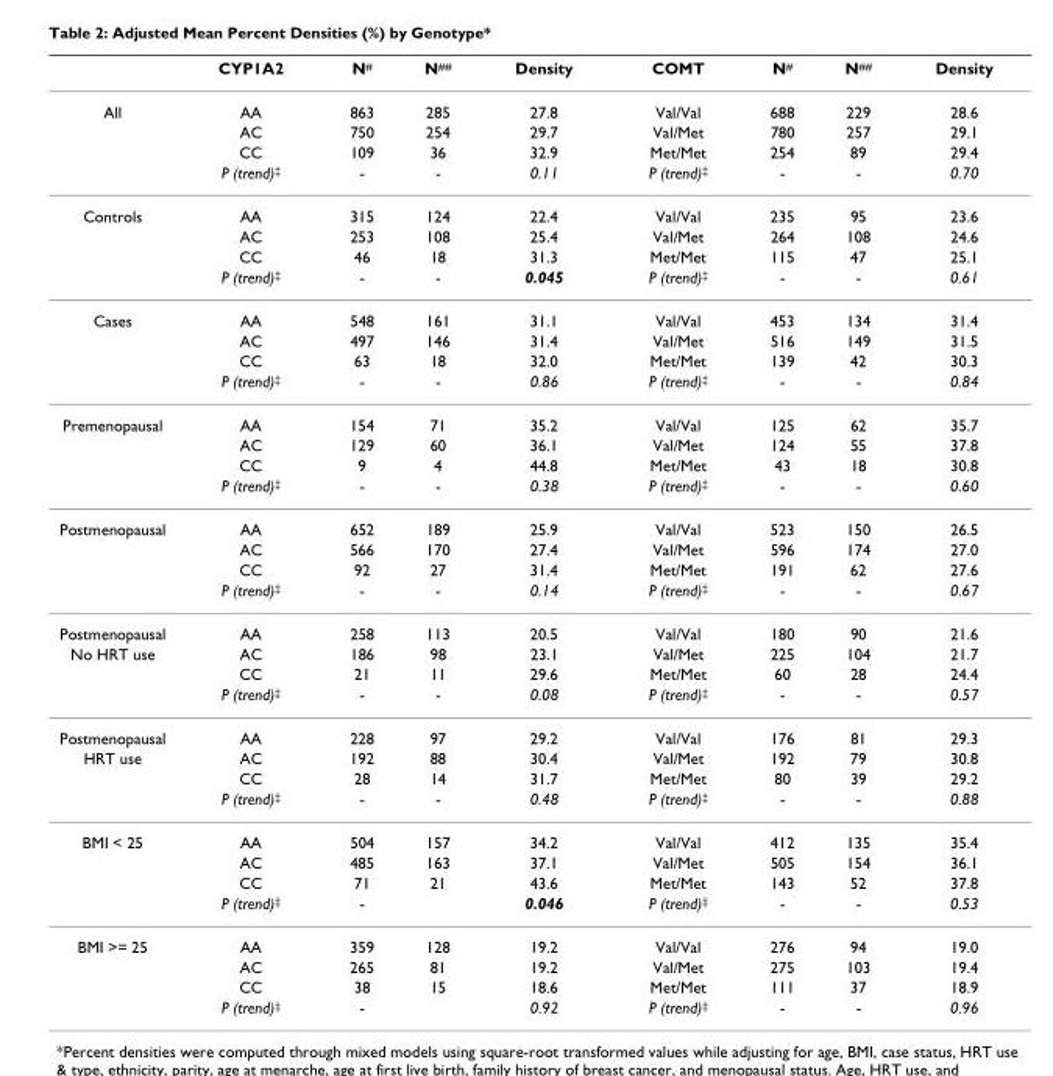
<table><thead><tr><td></td><td>CYP1A2</td><td>N#</td><td>N##</td><td>Density</td><td>COMT</td><td>N#</td><td>N##</td><td>Density</td></tr></thead><tbody><tr><td rowspan="4">All</td><td>AA</td><td>863</td><td>285</td><td>27.8</td><td>Val/Val</td><td>688</td><td>229</td><td>28.6</td></tr><tr><td>AC</td><td>750</td><td>254</td><td>29.7</td><td>Val/Met</td><td>780</td><td>257</td><td>29.1</td></tr><tr><td>CC</td><td>109</td><td>36</td><td>32.9</td><td>Met/Met</td><td>254</td><td>89</td><td>29.4</td></tr><tr><td>P (trend)‡</td><td>-</td><td>-</td><td>0.11</td><td>P (trend)‡</td><td>-</td><td>-</td><td>0.70</td></tr><tr><td rowspan="4">Controls</td><td>AA</td><td>315</td><td>124</td><td>22.4</td><td>Val/Val</td><td>235</td><td>95</td><td>23.6</td></tr><tr><td>AC</td><td>253</td><td>108</td><td>25.4</td><td>Val/Met</td><td>264</td><td>108</td><td>24.6</td></tr><tr><td>CC</td><td>46</td><td>18</td><td>31.3</td><td>Met/Met</td><td>115</td><td>47</td><td>25.1</td></tr><tr><td>P (trend)‡</td><td>-</td><td>-</td><td>0.045</td><td>P (trend)‡</td><td>-</td><td>-</td><td>0.61</td></tr><tr><td rowspan="4">Cases</td><td>AA</td><td>548</td><td>161</td><td>31.1</td><td>Val/Val</td><td>453</td><td>134</td><td>31.4</td></tr><tr><td>AC</td><td>497</td><td>146</td><td>31.4</td><td>Val/Met</td><td>516</td><td>149</td><td>31.5</td></tr><tr><td>CC</td><td>63</td><td>18</td><td>32.0</td><td>Met/Met</td><td>139</td><td>42</td><td>30.3</td></tr><tr><td>P (trend)‡</td><td>-</td><td>-</td><td>0.86</td><td>P (trend)‡</td><td>-</td><td>-</td><td>0.84</td></tr><tr><td rowspan="4">Premenopausal</td><td>AA</td><td>154</td><td>71</td><td>35.2</td><td>Val/Val</td><td>125</td><td>62</td><td>35.7</td></tr><tr><td>AC</td><td>129</td><td>60</td><td>36.1</td><td>Val/Met</td><td>124</td><td>55</td><td>37.8</td></tr><tr><td>CC</td><td>9</td><td>4</td><td>44.8</td><td>Met/Met</td><td>43</td><td>18</td><td>30.8</td></tr><tr><td>P (trend)‡</td><td>-</td><td>-</td><td>0.38</td><td>P (trend)‡</td><td>-</td><td>-</td><td>0.60</td></tr><tr><td rowspan="4">Postmenopausal</td><td>AA</td><td>652</td><td>189</td><td>25.9</td><td>Val/Val</td><td>523</td><td>150</td><td>26.5</td></tr><tr><td>AC</td><td>566</td><td>170</td><td>27.4</td><td>Val/Met</td><td>596</td><td>174</td><td>27.0</td></tr><tr><td>CC</td><td>92</td><td>27</td><td>31.4</td><td>Met/Met</td><td>191</td><td>62</td><td>27.6</td></tr><tr><td>P (trend)‡</td><td>-</td><td>-</td><td>0.14</td><td>P (trend)‡</td><td>-</td><td>-</td><td>0.67</td></tr><tr><td>Postmenopausal</td><td>AA</td><td>258</td><td>113</td><td>20.5</td><td>Val/Val</td><td>180</td><td>90</td><td>21.6</td></tr><tr><td rowspan="3">No HRT use</td><td>AC</td><td>186</td><td>98</td><td>23.1</td><td>Val/Met</td><td>225</td><td>104</td><td>21.7</td></tr><tr><td>CC</td><td>21</td><td>11</td><td>29.6</td><td>Met/Met</td><td>60</td><td>28</td><td>24.4</td></tr><tr><td>P (trend)‡</td><td>-</td><td>-</td><td>0.08</td><td>P (trend)‡</td><td>-</td><td>-</td><td>0.57</td></tr><tr><td>Postmenopausal</td><td>AA</td><td>228</td><td>97</td><td>29.2</td><td>Val/Val</td><td>176</td><td>81</td><td>29.3</td></tr><tr><td rowspan="3">HRT use</td><td>AC</td><td>192</td><td>88</td><td>30.4</td><td>Val/Met</td><td>192</td><td>79</td><td>30.8</td></tr><tr><td>CC</td><td>28</td><td>14</td><td>31.7</td><td>Met/Met</td><td>80</td><td>39</td><td>29.2</td></tr><tr><td>P (trend)‡</td><td>-</td><td>-</td><td>0.48</td><td>P (trend)‡</td><td>-</td><td>-</td><td>0.88</td></tr><tr><td rowspan="4">BMI &lt; 25</td><td>AA</td><td>504</td><td>157</td><td>34.2</td><td>Val/Val</td><td>412</td><td>135</td><td>35.4</td></tr><tr><td>AC</td><td>485</td><td>163</td><td>37.1</td><td>Val/Met</td><td>505</td><td>154</td><td>36.1</td></tr><tr><td>CC</td><td>71</td><td>21</td><td>43.6</td><td>Met/Met</td><td>143</td><td>52</td><td>37.8</td></tr><tr><td>P (trend)‡</td><td>-</td><td></td><td>0.046</td><td>P (trend)‡</td><td>-</td><td>-</td><td>0.53</td></tr><tr><td rowspan="4">BMI &gt;= 25</td><td>AA</td><td>359</td><td>128</td><td>19.2</td><td>Val/Val</td><td>276</td><td>94</td><td>19.0</td></tr><tr><td>AC</td><td>265</td><td>81</td><td>19.2</td><td>Val/Met</td><td>275</td><td>103</td><td>19.4</td></tr><tr><td>CC</td><td>38</td><td>15</td><td>18.6</td><td>Met/Met</td><td>111</td><td>37</td><td>18.9</td></tr><tr><td>P (trend)‡</td><td>-</td><td></td><td>0.92</td><td>P (trend)‡</td><td>-</td><td>-</td><td>0.96</td></tr></tbody></table>